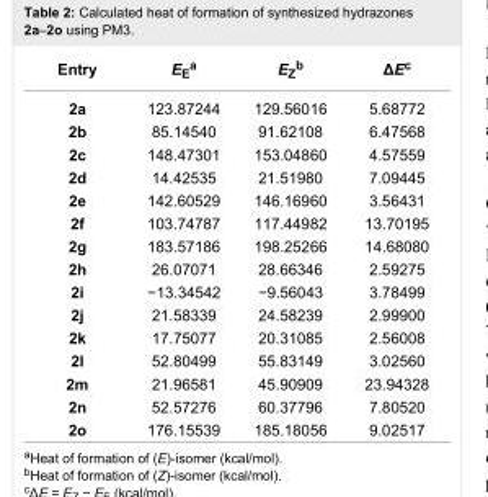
<table><tbody><tr><td>Entry</td><td>E<sub>E</sub><sup>a</sup></td><td>E<sub>Z</sub><sup>b</sup></td><td>ΔE<sup>c</sup></td></tr><tr><td>2a</td><td>123.87244</td><td>129.56016</td><td>5.68772</td></tr><tr><td>2b</td><td>85.14540</td><td>91.62108</td><td>6.47568</td></tr><tr><td>2c</td><td>148.47301</td><td>153.04860</td><td>4.57559</td></tr><tr><td>2d</td><td>14.42535</td><td>21.51980</td><td>7.09445</td></tr><tr><td>2e</td><td>142.60529</td><td>146.16960</td><td>3.56431</td></tr><tr><td>2f</td><td>103.74787</td><td>117.44982</td><td>13.70195</td></tr><tr><td>2g</td><td>183.57186</td><td>198.25266</td><td>14.68080</td></tr><tr><td>2h</td><td>26.07071</td><td>28.66346</td><td>2.59275</td></tr><tr><td>2i</td><td>−13.34542</td><td>−9.56043</td><td>3.78499</td></tr><tr><td>2j</td><td>21.58339</td><td>24.58239</td><td>2.99900</td></tr><tr><td>2k</td><td>17.75077</td><td>20.31085</td><td>2.56008</td></tr><tr><td>2l</td><td>52.80499</td><td>55.83149</td><td>3.02560</td></tr><tr><td>2m</td><td>21.96581</td><td>45.90909</td><td>23.94328</td></tr><tr><td>2n</td><td>52.57276</td><td>60.37796</td><td>7.80520</td></tr><tr><td>2o</td><td>176.15539</td><td>185.18056</td><td>9.02517</td></tr></tbody></table>